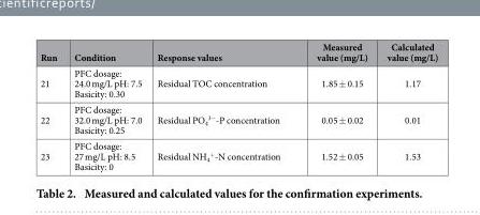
<table><thead><tr><td>Run</td><td>Condition</td><td>Response values</td><td>Measured value (mg/L)</td><td>Calculated value (mg/L)</td></tr></thead><tbody><tr><td>21</td><td>PFC dosage: 24.0 mg/L pH: 7.5 Basicity: 0.30</td><td>Residual TOC concentration</td><td>1.85 ± 0.15</td><td>1.17</td></tr><tr><td>22</td><td>PFC dosage: 32.0 mg/L pH: 7.0 Basicity: 0.25</td><td>Residual PO<sub>4</sub> <sup>3−</sup>-P concentration</td><td>0.05 ± 0.02</td><td>0.01</td></tr><tr><td>23</td><td>PFC dosage: 27 mg/L pH: 8.5 Basicity: 0</td><td>Residual NH<sub>4</sub> <sup>+</sup>-N concentration</td><td>1.52 ± 0.05</td><td>1.53</td></tr></tbody></table>